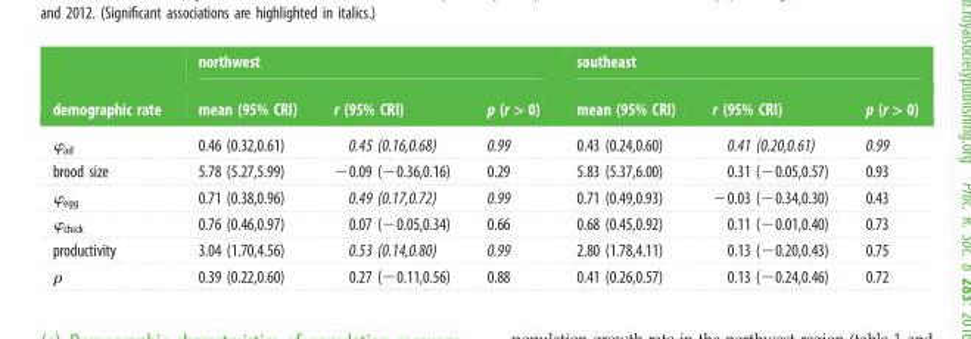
<table><thead><tr><td rowspan="2">demographic rate</td><td colspan="3">northwest</td><td colspan="3">southeast</td></tr><tr><td>mean (95% CRI)</td><td>r (95% CRI)</td><td>p (r &gt; 0)</td><td>mean (95% CRI)</td><td>r (95% CRI)</td><td>p (r &gt; 0)</td></tr></thead><tbody><tr><td>φ<sub>ad</sub></td><td>0.46 (0.32,0.61)</td><td>0.45 (0.16,0.68)</td><td>0.99</td><td>0.43 (0.24,0.60)</td><td>0.41 (0.20,0.61)</td><td>0.99</td></tr><tr><td>brood size</td><td>5.78 (5.27,5.99)</td><td>−0.09 (−0.36,0.16)</td><td>0.29</td><td>5.83 (5.37,6.00)</td><td>0.31 (−0.05,0.57)</td><td>0.93</td></tr><tr><td>φ<sub>egg</sub></td><td>0.71 (0.38,0.96)</td><td>0.49 (0.17,0.72)</td><td>0.99</td><td>0.71 (0.49,0.93)</td><td>−0.03 (−0.34,0.30)</td><td>0.43</td></tr><tr><td>φ<sub>chick</sub></td><td>0.76 (0.46,0.97)</td><td>0.07 (−0.05,0.34)</td><td>0.66</td><td>0.68 (0.45,0.92)</td><td>0.11 (−0.01,0.40)</td><td>0.73</td></tr><tr><td>productivity</td><td>3.04 (1.70,4.56)</td><td>0.53 (0.14,0.80)</td><td>0.99</td><td>2.80 (1.78,4.11)</td><td>0.13 (−0.20,0.43)</td><td>0.75</td></tr><tr><td>ρ</td><td>0.39 (0.22,0.60)</td><td>0.27 (−0.11,0.56)</td><td>0.88</td><td>0.41 (0.26,0.57)</td><td>0.13 (−0.24,0.46)</td><td>0.72</td></tr></tbody></table>